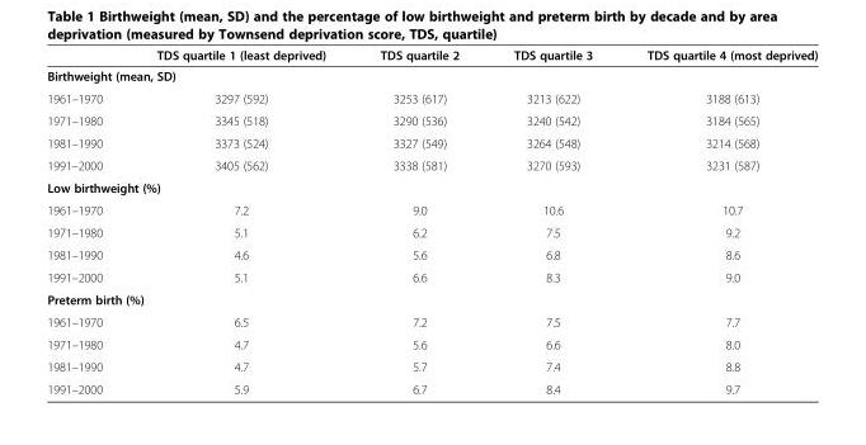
<table><thead><tr><td></td><td>TDS quartile 1 (least deprived)</td><td>TDS quartile 2</td><td>TDS quartile 3</td><td>TDS quartile 4 (most deprived)</td></tr></thead><tbody><tr><td colspan="5">Birthweight (mean, SD)</td></tr><tr><td>1961–1970</td><td>3297 (592)</td><td>3253 (617)</td><td>3213 (622)</td><td>3188 (613)</td></tr><tr><td>1971–1980</td><td>3345 (518)</td><td>3290 (536)</td><td>3240 (542)</td><td>3184 (565)</td></tr><tr><td>1981–1990</td><td>3373 (524)</td><td>3327 (549)</td><td>3264 (548)</td><td>3214 (568)</td></tr><tr><td>1991–2000</td><td>3405 (562)</td><td>3338 (581)</td><td>3270 (593)</td><td>3231 (587)</td></tr><tr><td colspan="5">Low birthweight (%)</td></tr><tr><td>1961–1970</td><td>7.2</td><td>9.0</td><td>10.6</td><td>10.7</td></tr><tr><td>1971–1980</td><td>5.1</td><td>6.2</td><td>7.5</td><td>9.2</td></tr><tr><td>1981–1990</td><td>4.6</td><td>5.6</td><td>6.8</td><td>8.6</td></tr><tr><td>1991–2000</td><td>5.1</td><td>6.6</td><td>8.3</td><td>9.0</td></tr><tr><td colspan="5">Preterm birth (%)</td></tr><tr><td>1961–1970</td><td>6.5</td><td>7.2</td><td>7.5</td><td>7.7</td></tr><tr><td>1971–1980</td><td>4.7</td><td>5.6</td><td>6.6</td><td>8.0</td></tr><tr><td>1981–1990</td><td>4.7</td><td>5.7</td><td>7.4</td><td>8.8</td></tr><tr><td>1991–2000</td><td>5.9</td><td>6.7</td><td>8.4</td><td>9.7</td></tr></tbody></table>